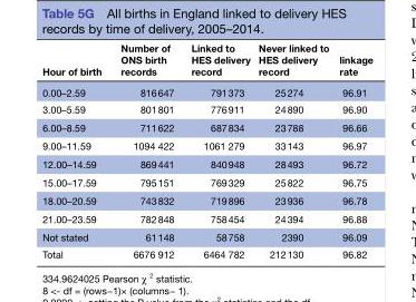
<table><thead><tr><td>Hour of birth</td><td>Number of ONS birth records</td><td>Linked to HES delivery record</td><td>Never linked to HES delivery record</td><td>linkage rate</td></tr></thead><tbody><tr><td>0.00–2.59</td><td>816 647</td><td>791 373</td><td>25 274</td><td>96.91</td></tr><tr><td>3.00–5.59</td><td>801 801</td><td>776 911</td><td>24 890</td><td>96.90</td></tr><tr><td>6.00–8.59</td><td>711 622</td><td>687 834</td><td>23 788</td><td>96.66</td></tr><tr><td>9.00–11.59</td><td>1094 422</td><td>1061 279</td><td>33 143</td><td>96.97</td></tr><tr><td>12.00–14.59</td><td>869 441</td><td>840 948</td><td>28 493</td><td>96.72</td></tr><tr><td>15.00–17.59</td><td>795 151</td><td>769 329</td><td>25 822</td><td>96.75</td></tr><tr><td>18.00–20.59</td><td>743 832</td><td>719 896</td><td>23 936</td><td>96.78</td></tr><tr><td>21.00–23.59</td><td>782 848</td><td>758 454</td><td>24 394</td><td>96.88</td></tr><tr><td>Not stated</td><td>61 148</td><td>58 758</td><td>2390</td><td>96.09</td></tr><tr><td>Total</td><td>6676 912</td><td>6464 782</td><td>212 130</td><td>96.82</td></tr></tbody></table>